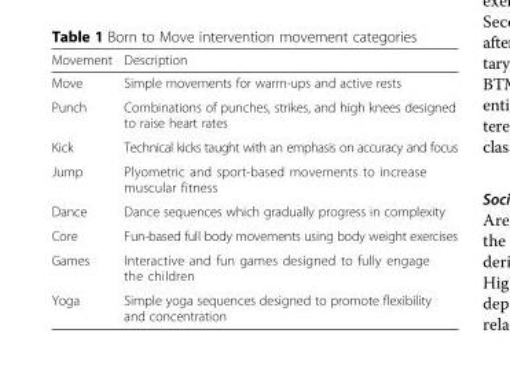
<table><thead><tr><td>Movement</td><td>Description</td></tr></thead><tbody><tr><td>Move</td><td>Simple movements for warm-ups and active rests</td></tr><tr><td>Punch</td><td>Combinations of punches, strikes, and high knees designed to raise heart rates</td></tr><tr><td>Kick</td><td>Technical kicks taught with an emphasis on accuracy and focus</td></tr><tr><td>Jump</td><td>Plyometric and sport-based movements to increase muscular fitness</td></tr><tr><td>Dance</td><td>Dance sequences which gradually progress in complexity</td></tr><tr><td>Core</td><td>Fun-based full body movements using body weight exercises</td></tr><tr><td>Games</td><td>Interactive and fun games designed to fully engage the children</td></tr><tr><td>Yoga</td><td>Simple yoga sequences designed to promote flexibility and concentration</td></tr></tbody></table>